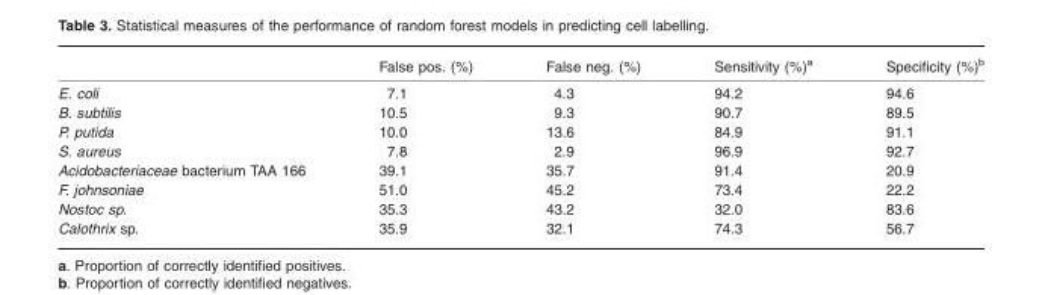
<table><thead><tr><td></td><td>False pos. (%)</td><td>False neg. (%)</td><td>Sensitivity (%)<sup>a</sup></td><td>Specificity (%)<sup>b</sup></td></tr></thead><tbody><tr><td>E. coli</td><td>7.1</td><td>4.3</td><td>94.2</td><td>94.6</td></tr><tr><td>B. subtilis</td><td>10.5</td><td>9.3</td><td>90.7</td><td>89.5</td></tr><tr><td>P. putida</td><td>10.0</td><td>13.6</td><td>84.9</td><td>91.1</td></tr><tr><td>S. aureus</td><td>7.8</td><td>2.9</td><td>96.9</td><td>92.7</td></tr><tr><td>Acidobacteriaceae bacterium TAA 166</td><td>39.1</td><td>35.7</td><td>91.4</td><td>20.9</td></tr><tr><td>F. johnsoniae</td><td>51.0</td><td>45.2</td><td>73.4</td><td>22.2</td></tr><tr><td>Nostoc sp.</td><td>35.3</td><td>43.2</td><td>32.0</td><td>83.6</td></tr><tr><td>Calothrix sp.</td><td>35.9</td><td>32.1</td><td>74.3</td><td>56.7</td></tr></tbody></table>